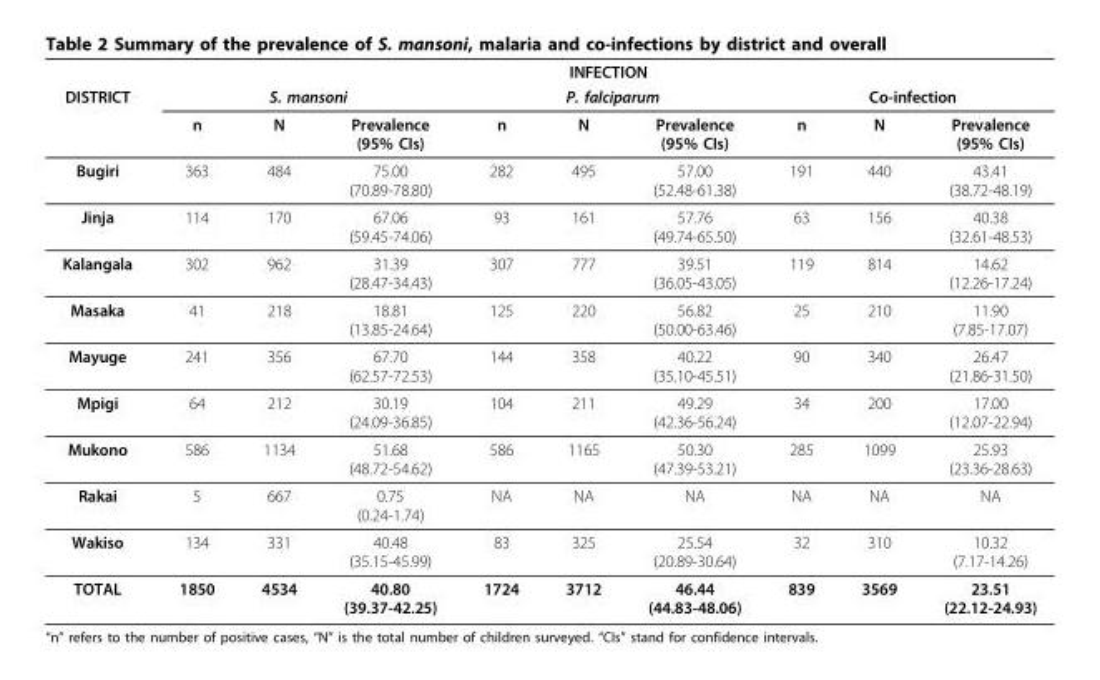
<table><thead><tr><td rowspan="3">DISTRICT</td><td colspan="9">INFECTION</td></tr><tr><td colspan="3">S. mansoni</td><td colspan="3">P. falciparum</td><td colspan="3">Co-infection</td></tr><tr><td>n</td><td>N</td><td>Prevalence (95% CIs)</td><td>n</td><td>N</td><td>Prevalence (95% CIs)</td><td>n</td><td>N</td><td>Prevalence (95% CIs)</td></tr></thead><tbody><tr><td>Bugiri</td><td>363</td><td>484</td><td>75.00 (70.89-78.80)</td><td>282</td><td>495</td><td>57.00 (52.48-61.38)</td><td>191</td><td>440</td><td>43.41 (38.72-48.19)</td></tr><tr><td>Jinja</td><td>114</td><td>170</td><td>67.06 (59.45-74.06)</td><td>93</td><td>161</td><td>57.76 (49.74-65.50)</td><td>63</td><td>156</td><td>40.38 (32.61-48.53)</td></tr><tr><td>Kalangala</td><td>302</td><td>962</td><td>31.39 (28.47-34.43)</td><td>307</td><td>777</td><td>39.51 (36.05-43.05)</td><td>119</td><td>814</td><td>14.62 (12.26-17.24)</td></tr><tr><td>Masaka</td><td>41</td><td>218</td><td>18.81 (13.85-24.64)</td><td>125</td><td>220</td><td>56.82 (50.00-63.46)</td><td>25</td><td>210</td><td>11.90 (7.85-17.07)</td></tr><tr><td>Mayuge</td><td>241</td><td>356</td><td>67.70 (62.57-72.53)</td><td>144</td><td>358</td><td>40.22 (35.10-45.51)</td><td>90</td><td>340</td><td>26.47 (21.86-31.50)</td></tr><tr><td>Mpigi</td><td>64</td><td>212</td><td>30.19 (24.09-36.85)</td><td>104</td><td>211</td><td>49.29 (42.36-56.24)</td><td>34</td><td>200</td><td>17.00 (12.07-22.94)</td></tr><tr><td>Mukono</td><td>586</td><td>1134</td><td>51.68 (48.72-54.62)</td><td>586</td><td>1165</td><td>50.30 (47.39-53.21)</td><td>285</td><td>1099</td><td>25.93 (23.36-28.63)</td></tr><tr><td>Rakai</td><td>5</td><td>667</td><td>0.75 (0.24-1.74)</td><td>NA</td><td>NA</td><td>NA</td><td>NA</td><td>NA</td><td>NA</td></tr><tr><td>Wakiso</td><td>134</td><td>331</td><td>40.48 (35.15-45.99)</td><td>83</td><td>325</td><td>25.54 (20.89-30.64)</td><td>32</td><td>310</td><td>10.32 (7.17-14.26)</td></tr><tr><td>TOTAL</td><td>1850</td><td>4534</td><td>40.80 (39.37-42.25)</td><td>1724</td><td>3712</td><td>46.44 (44.83-48.06)</td><td>839</td><td>3569</td><td>23.51 (22.12-24.93)</td></tr></tbody></table>